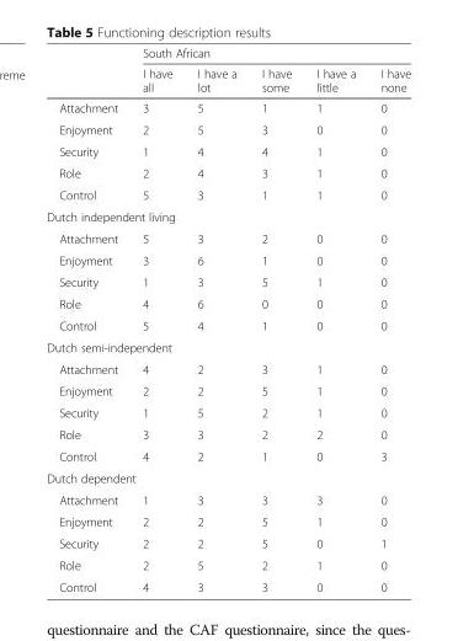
<table><thead><tr><td rowspan="2"></td><td colspan="5">South African</td></tr><tr><td>I have all</td><td>I have a lot</td><td>I have some</td><td>I have a little</td><td>I have none</td></tr></thead><tbody><tr><td>Attachment</td><td>3</td><td>5</td><td>1</td><td>1</td><td>0</td></tr><tr><td>Enjoyment</td><td>2</td><td>5</td><td>3</td><td>0</td><td>0</td></tr><tr><td>Security</td><td>1</td><td>4</td><td>4</td><td>1</td><td>0</td></tr><tr><td>Role</td><td>2</td><td>4</td><td>3</td><td>1</td><td>0</td></tr><tr><td>Control</td><td>5</td><td>3</td><td>1</td><td>1</td><td>0</td></tr><tr><td colspan="6">Dutch independent living</td></tr><tr><td>Attachment</td><td>5</td><td>3</td><td>2</td><td>0</td><td>0</td></tr><tr><td>Enjoyment</td><td>3</td><td>6</td><td>1</td><td>0</td><td>0</td></tr><tr><td>Security</td><td>1</td><td>3</td><td>5</td><td>1</td><td>0</td></tr><tr><td>Role</td><td>4</td><td>6</td><td>0</td><td>0</td><td>0</td></tr><tr><td>Control</td><td>5</td><td>4</td><td>1</td><td>0</td><td>0</td></tr><tr><td colspan="6">Dutch semi-independent</td></tr><tr><td>Attachment</td><td>4</td><td>2</td><td>3</td><td>1</td><td>0</td></tr><tr><td>Enjoyment</td><td>2</td><td>2</td><td>5</td><td>1</td><td>0</td></tr><tr><td>Security</td><td>1</td><td>5</td><td>2</td><td>1</td><td>0</td></tr><tr><td>Role</td><td>3</td><td>3</td><td>2</td><td>2</td><td>0</td></tr><tr><td>Control</td><td>4</td><td>2</td><td>1</td><td>0</td><td>3</td></tr><tr><td colspan="6">Dutch dependent</td></tr><tr><td>Attachment</td><td>1</td><td>3</td><td>3</td><td>3</td><td>0</td></tr><tr><td>Enjoyment</td><td>2</td><td>2</td><td>5</td><td>1</td><td>0</td></tr><tr><td>Security</td><td>2</td><td>2</td><td>5</td><td>0</td><td>1</td></tr><tr><td>Role</td><td>2</td><td>5</td><td>2</td><td>1</td><td>0</td></tr><tr><td>Control</td><td>4</td><td>3</td><td>3</td><td>0</td><td>0</td></tr></tbody></table>